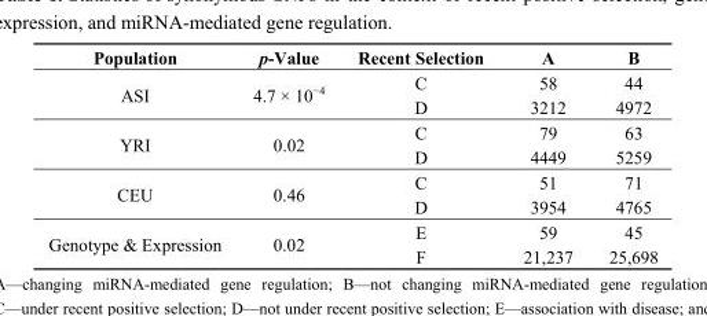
<table><thead><tr><td>Population</td><td>p-Value</td><td>Recent Selection</td><td>A</td><td>B</td></tr></thead><tbody><tr><td rowspan="2">ASI</td><td rowspan="2">4.7 × 10<sup>−4</sup></td><td>C</td><td>58</td><td>44</td></tr><tr><td>D</td><td>3212</td><td>4972</td></tr><tr><td rowspan="2">YRI</td><td rowspan="2">0.02</td><td>C</td><td>79</td><td>63</td></tr><tr><td>D</td><td>4449</td><td>5259</td></tr><tr><td rowspan="2">CEU</td><td rowspan="2">0.46</td><td>C</td><td>51</td><td>71</td></tr><tr><td>D</td><td>3954</td><td>4765</td></tr><tr><td rowspan="2">Genotype &amp; Expression</td><td rowspan="2">0.02</td><td>E</td><td>59</td><td>45</td></tr><tr><td>F</td><td>21,237</td><td>25,698</td></tr></tbody></table>